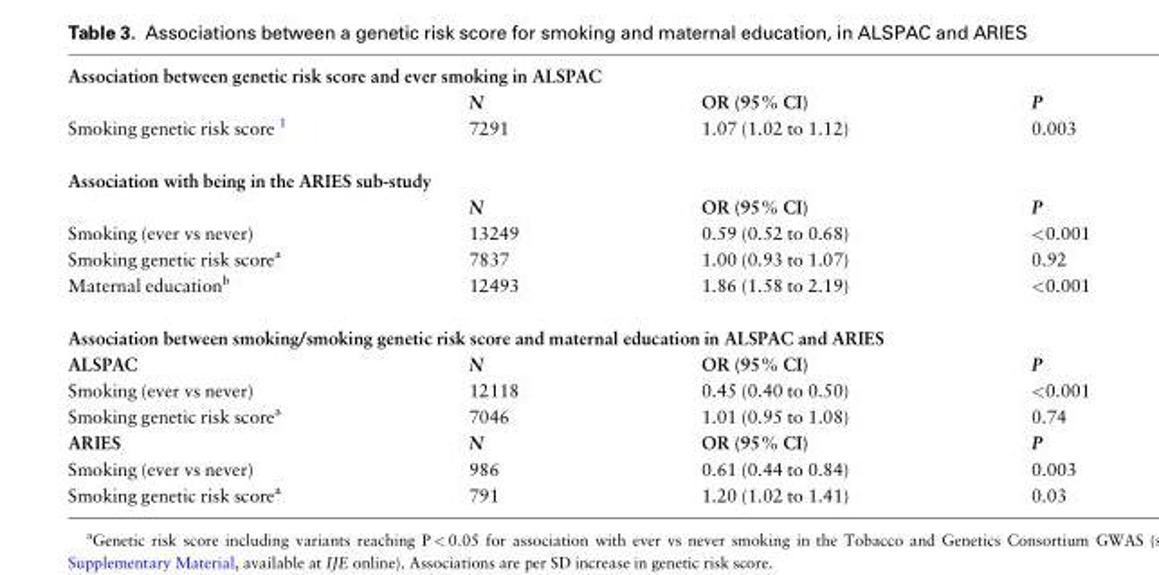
<table><tbody><tr><td colspan="4">Association between genetic risk score and ever smoking in ALSPAC</td></tr><tr><td></td><td>N</td><td>OR (95% CI)</td><td>P</td></tr><tr><td>Smoking genetic risk score <sup>1</sup></td><td>7291</td><td>1.07 (1.02 to 1.12)</td><td>0.003</td></tr><tr><td colspan="4">Association with being in the ARIES sub-study</td></tr><tr><td></td><td>N</td><td>OR (95% CI)</td><td>P</td></tr><tr><td>Smoking (ever vs never)</td><td>13249</td><td>0.59 (0.52 to 0.68)</td><td>&lt;0.001</td></tr><tr><td>Smoking genetic risk score<sup>a</sup></td><td>7837</td><td>1.00 (0.93 to 1.07)</td><td>0.92</td></tr><tr><td>Maternal education<sup>b</sup></td><td>12493</td><td>1.86 (1.58 to 2.19)</td><td>&lt;0.001</td></tr><tr><td colspan="4">Association between smoking/smoking genetic risk score and maternal education in ALSPAC and ARIES</td></tr><tr><td>ALSPAC</td><td>N</td><td>OR (95% CI)</td><td>P</td></tr><tr><td>Smoking (ever vs never)</td><td>12118</td><td>0.45 (0.40 to 0.50)</td><td>&lt;0.001</td></tr><tr><td>Smoking genetic risk score<sup>a</sup></td><td>7046</td><td>1.01 (0.95 to 1.08)</td><td>0.74</td></tr><tr><td>ARIES</td><td>N</td><td>OR (95% CI)</td><td>P</td></tr><tr><td>Smoking (ever vs never)</td><td>986</td><td>0.61 (0.44 to 0.84)</td><td>0.003</td></tr><tr><td>Smoking genetic risk score<sup>a</sup></td><td>791</td><td>1.20 (1.02 to 1.41)</td><td>0.03</td></tr></tbody></table>